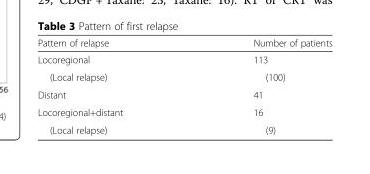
<table><thead><tr><td>Pattern of relapse</td><td>Number of patients</td></tr></thead><tbody><tr><td>Locoregional</td><td>113</td></tr><tr><td>(Local relapse)</td><td>(100)</td></tr><tr><td>Distant</td><td>41</td></tr><tr><td>Locoregional+distant</td><td>16</td></tr><tr><td>(Local relapse)</td><td>(9)</td></tr></tbody></table>